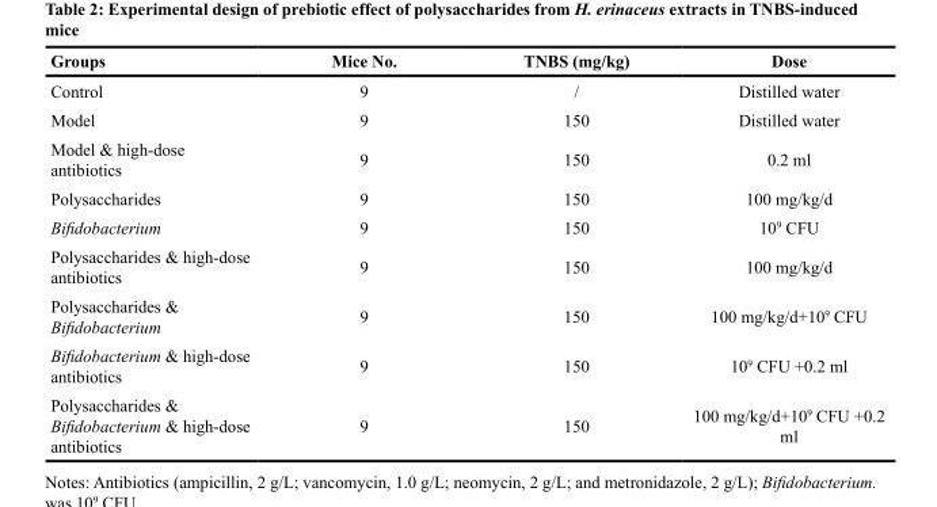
<table><thead><tr><td>Groups</td><td>Mice No.</td><td>TNBS (mg/kg)</td><td>Dose</td></tr></thead><tbody><tr><td>Control</td><td>9</td><td>/</td><td>Distilled water</td></tr><tr><td>Model</td><td>9</td><td>150</td><td>Distilled water</td></tr><tr><td>Model &amp; high-dose antibiotics</td><td>9</td><td>150</td><td>0.2 ml</td></tr><tr><td>Polysaccharides</td><td>9</td><td>150</td><td>100 mg/kg/d</td></tr><tr><td>Bifidobacterium</td><td>9</td><td>150</td><td>10<sup>9</sup> CFU</td></tr><tr><td>Polysaccharides &amp; high-dose antibiotics</td><td>9</td><td>150</td><td>100 mg/kg/d</td></tr><tr><td>Polysaccharides &amp; Bifidobacterium</td><td>9</td><td>150</td><td>100 mg/kg/d+10<sup>9</sup> CFU</td></tr><tr><td>Bifidobacterium &amp; high-dose antibiotics</td><td>9</td><td>150</td><td>10<sup>9</sup> CFU +0.2 ml</td></tr><tr><td>Polysaccharides &amp; Bifidobacterium &amp; high-dose antibiotics</td><td>9</td><td>150</td><td>100 mg/kg/d+10<sup>9</sup> CFU +0.2 ml</td></tr></tbody></table>